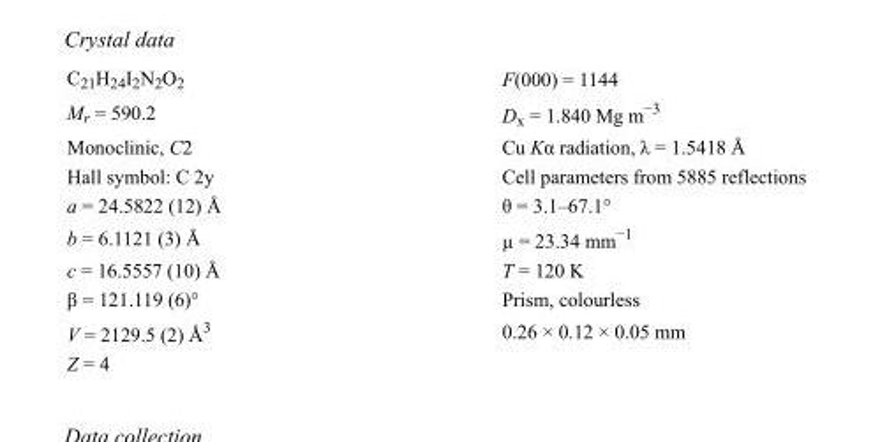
<table><tbody><tr><td>C<sub>21</sub>H<sub>24</sub>I<sub>2</sub>N<sub>2</sub>O<sub>2</sub></td><td>F(000) = 1144</td></tr><tr><td>M<sub>r</sub> = 590.2</td><td>D<sub>x</sub> = 1.840 Mg m<sup>−3</sup></td></tr><tr><td>Monoclinic, C2</td><td>Cu Kα radiation, λ = 1.5418 Å</td></tr><tr><td>Hall symbol: C 2y</td><td>Cell parameters from 5885 reflections</td></tr><tr><td>a = 24.5822 (12) Å</td><td>θ = 3.1–67.1°</td></tr><tr><td>b = 6.1121 (3) Å</td><td>µ = 23.34 mm<sup>−1</sup></td></tr><tr><td>c = 16.5557 (10) Å</td><td>T = 120 K</td></tr><tr><td>β = 121.119 (6)°</td><td>Prism, colourless</td></tr><tr><td>V = 2129.5 (2) Å<sup>3</sup></td><td>0.26 × 0.12 × 0.05 mm</td></tr><tr><td>Z = 4</td><td></td></tr></tbody></table>